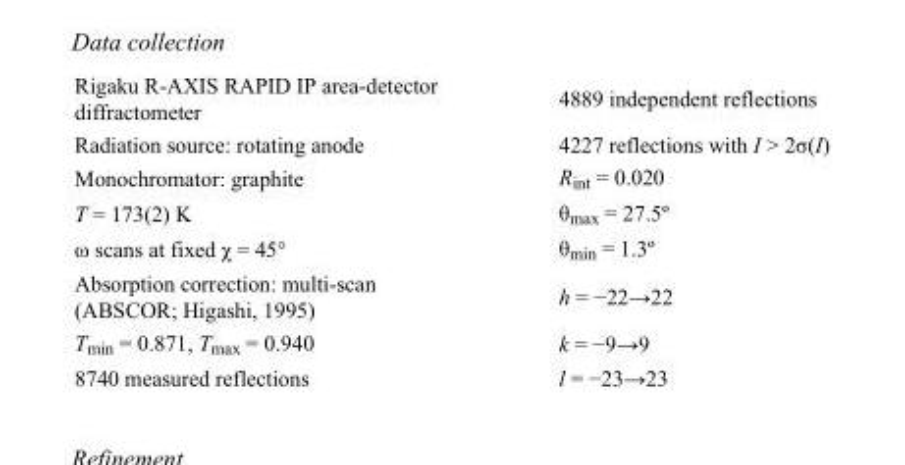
<table><tbody><tr><td>Rigaku R-AXIS RAPID IP area-detector diffractometer</td><td>4889 independent reflections</td></tr><tr><td>Radiation source: rotating anode</td><td>4227 reflections with I &gt; 2σ(I)</td></tr><tr><td>Monochromator: graphite</td><td>R<sub>int</sub> = 0.020</td></tr><tr><td>T = 173(2) K</td><td>θ<sub>max</sub> = 27.5º</td></tr><tr><td>ω scans at fixed χ = 45°</td><td>θ<sub>min</sub> = 1.3º</td></tr><tr><td>Absorption correction: multi-scan (ABSCOR; Higashi, 1995)</td><td>h = −22→22</td></tr><tr><td>T<sub>min</sub> = 0.871, T<sub>max</sub> = 0.940</td><td>k = −9→9</td></tr><tr><td>8740 measured reflections</td><td>l = −23→23</td></tr></tbody></table>